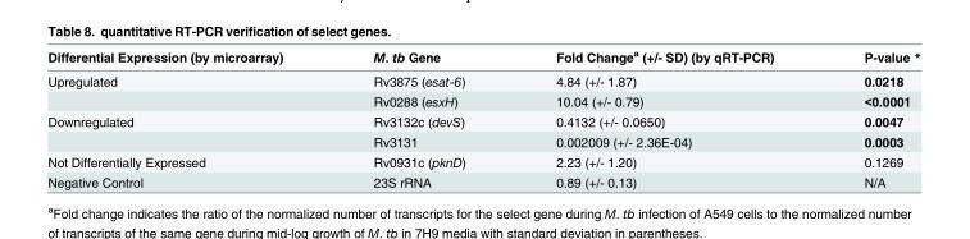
<table><thead><tr><td>Differential Expression (by microarray)</td><td>M. tb Gene</td><td>Fold Change<sup>a</sup> (+/- SD) (by qRT-PCR)</td><td>P-value *</td></tr></thead><tbody><tr><td rowspan="2">Upregulated</td><td>Rv3875 (esat-6)</td><td>4.84 (+/- 1.87)</td><td>0.0218</td></tr><tr><td>Rv0288 (esxH)</td><td>10.04 (+/- 0.79)</td><td>&lt;0.0001</td></tr><tr><td rowspan="2">Downregulated</td><td>Rv3132c (devS)</td><td>0.4132 (+/- 0.0650)</td><td>0.0047</td></tr><tr><td>Rv3131</td><td>0.002009 (+/- 2.36E-04)</td><td>0.0003</td></tr><tr><td>Not Differentially Expressed</td><td>Rv0931c (pknD)</td><td>2.23 (+/- 1.20)</td><td>0.1269</td></tr><tr><td>Negative Control</td><td>23S rRNA</td><td>0.89 (+/- 0.13)</td><td>N/A</td></tr></tbody></table>